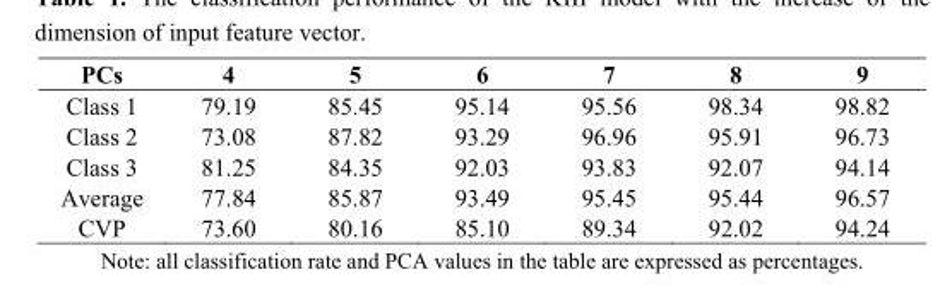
<table><thead><tr><td>PCs</td><td>4</td><td>5</td><td>6</td><td>7</td><td>8</td><td>9</td></tr></thead><tbody><tr><td>Class 1</td><td>79.19</td><td>85.45</td><td>95.14</td><td>95.56</td><td>98.34</td><td>98.82</td></tr><tr><td>Class 2</td><td>73.08</td><td>87.82</td><td>93.29</td><td>96.96</td><td>95.91</td><td>96.73</td></tr><tr><td>Class 3</td><td>81.25</td><td>84.35</td><td>92.03</td><td>93.83</td><td>92.07</td><td>94.14</td></tr><tr><td>Average</td><td>77.84</td><td>85.87</td><td>93.49</td><td>95.45</td><td>95.44</td><td>96.57</td></tr><tr><td>CVP</td><td>73.60</td><td>80.16</td><td>85.10</td><td>89.34</td><td>92.02</td><td>94.24</td></tr></tbody></table>